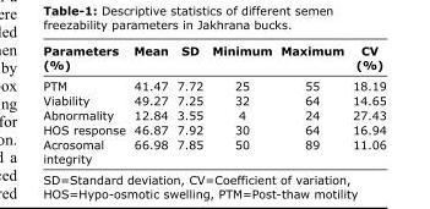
<table><thead><tr><td>Parameters (%)</td><td>Mean</td><td>SD</td><td>Minimum</td><td>Maximum</td><td>CV (%)</td></tr></thead><tbody><tr><td>PTM</td><td>41.47</td><td>7.72</td><td>25</td><td>55</td><td>18.19</td></tr><tr><td>Viability</td><td>49.27</td><td>7.25</td><td>32</td><td>64</td><td>14.65</td></tr><tr><td>Abnormality</td><td>12.84</td><td>3.55</td><td>4</td><td>24</td><td>27.43</td></tr><tr><td>HOS response</td><td>46.87</td><td>7.92</td><td>30</td><td>64</td><td>16.94</td></tr><tr><td>Acrosomal integrity</td><td>66.98</td><td>7.85</td><td>50</td><td>89</td><td>11.06</td></tr></tbody></table>